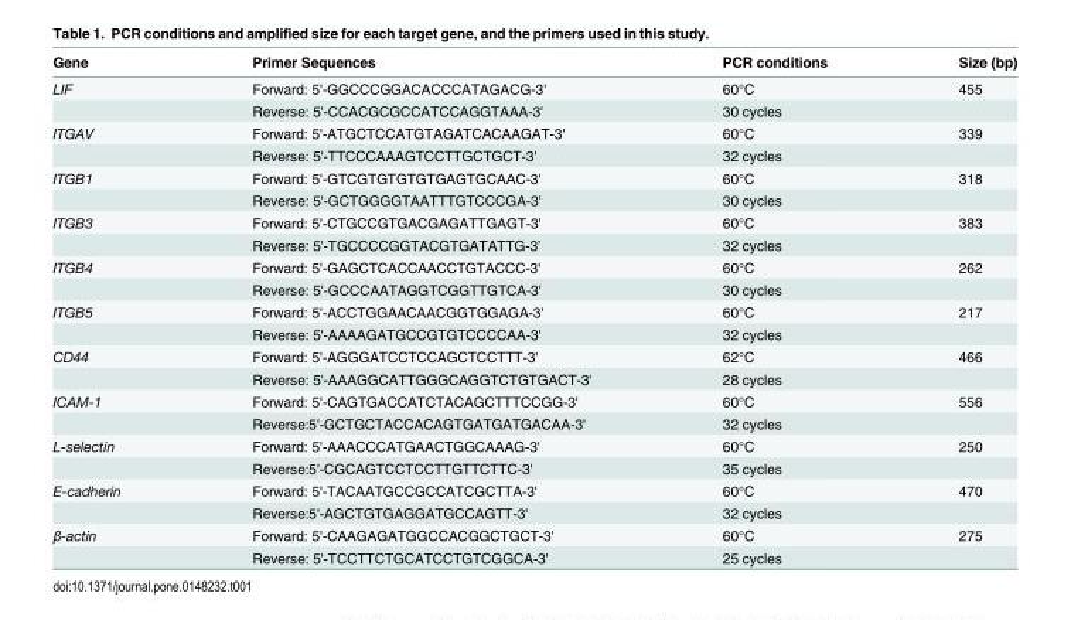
<table><thead><tr><td>Gene</td><td>Primer Sequences</td><td>PCR conditions</td><td>Size (bp)</td></tr></thead><tbody><tr><td rowspan="2">LIF</td><td>Forward: 5&#x27;-GGCCCGGACACCCATAGACG-3&#x27;</td><td>60°C</td><td>455</td></tr><tr><td>Reverse: 5&#x27;-CCACGCGCCATCCAGGTAAA-3&#x27;</td><td>30 cycles</td><td></td></tr><tr><td rowspan="2">ITGAV</td><td>Forward: 5&#x27;-ATGCTCCATGTAGATCACAAGAT-3&#x27;</td><td>60°C</td><td>339</td></tr><tr><td>Reverse: 5&#x27;-TTCCCAAAGTCCTTGCTGCT-3&#x27;</td><td>32 cycles</td><td></td></tr><tr><td rowspan="2">ITGB1</td><td>Forward: 5&#x27;-GTCGTGTGTGTGAGTGCAAC-3&#x27;</td><td>60°C</td><td>318</td></tr><tr><td>Reverse: 5&#x27;-GCTGGGGTAATTTGTCCCGA-3&#x27;</td><td>30 cycles</td><td></td></tr><tr><td rowspan="2">ITGB3</td><td>Forward: 5&#x27;-CTGCCGTGACGAGATTGAGT-3&#x27;</td><td>60°C</td><td>383</td></tr><tr><td>Reverse: 5&#x27;-TGCCCCGGTACGTGATATTG-3’</td><td>32 cycles</td><td></td></tr><tr><td rowspan="2">ITGB4</td><td>Forward: 5&#x27;-GAGCTCACCAACCTGTACCC-3&#x27;</td><td>60°C</td><td>262</td></tr><tr><td>Reverse: 5&#x27;-GCCCAATAGGTCGGTTGTCA-3&#x27;</td><td>30 cycles</td><td></td></tr><tr><td rowspan="2">ITGB5</td><td>Forward: 5&#x27;-ACCTGGAACAACGGTGGAGA-3&#x27;</td><td>60°C</td><td>217</td></tr><tr><td>Reverse: 5&#x27;-AAAAGATGCCGTGTCCCCAA-3&#x27;</td><td>32 cycles</td><td></td></tr><tr><td rowspan="2">CD44</td><td>Forward: 5&#x27;-AGGGATCCTCCAGCTCCTTT-3&#x27;</td><td>62°C</td><td>466</td></tr><tr><td>Reverse: 5&#x27;-AAAGGCATTGGGCAGGTCTGTGACT-3&#x27;</td><td>28 cycles</td><td></td></tr><tr><td rowspan="2">ICAM-1</td><td>Forward: 5&#x27;-CAGTGACCATCTACAGCTTTCCGG-3&#x27;</td><td>60°C</td><td>556</td></tr><tr><td>Reverse:5&#x27;-GCTGCTACCACAGTGATGATGACAA-3&#x27;</td><td>32 cycles</td><td></td></tr><tr><td rowspan="2">L-selectin</td><td>Forward: 5&#x27;-AAACCCATGAACTGGCAAAG-3&#x27;</td><td>60°C</td><td>250</td></tr><tr><td>Reverse:5&#x27;-CGCAGTCCTCCTTGTTCTTC-3&#x27;</td><td>35 cycles</td><td></td></tr><tr><td rowspan="2">E-cadherin</td><td>Forward: 5&#x27;-TACAATGCCGCCATCGCTTA-3&#x27;</td><td>60°C</td><td>470</td></tr><tr><td>Reverse:5&#x27;-AGCTGTGAGGATGCCAGTT-3&#x27;</td><td>32 cycles</td><td></td></tr><tr><td rowspan="2">β-actin</td><td>Forward: 5&#x27;-CAAGAGATGGCCACGGCTGCT-3&#x27;</td><td>60°C</td><td>275</td></tr><tr><td>Reverse: 5&#x27;-TCCTTCTGCATCCTGTCGGCA-3&#x27;</td><td>25 cycles</td><td></td></tr></tbody></table>